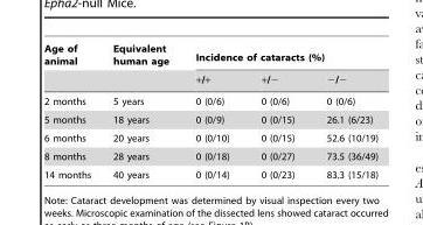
<table><thead><tr><td rowspan="2">Age of animal</td><td rowspan="2">Equivalent human age</td><td colspan="3">Incidence of cataracts (%)</td></tr><tr><td>+/+</td><td>+/−</td><td>−/−</td></tr></thead><tbody><tr><td>2 months</td><td>5 years</td><td>0 (0/6)</td><td>0 (0/6)</td><td>0 (0/6)</td></tr><tr><td>5 months</td><td>18 years</td><td>0 (0/9)</td><td>0 (0/15)</td><td>26.1 (6/23)</td></tr><tr><td>6 months</td><td>20 years</td><td>0 (0/10)</td><td>0 (0/15)</td><td>52.6 (10/19)</td></tr><tr><td>8 months</td><td>28 years</td><td>0 (0/18)</td><td>0 (0/27)</td><td>73.5 (36/49)</td></tr><tr><td>14 months</td><td>40 years</td><td>0 (0/14)</td><td>0 (0/23)</td><td>83.3 (15/18)</td></tr></tbody></table>